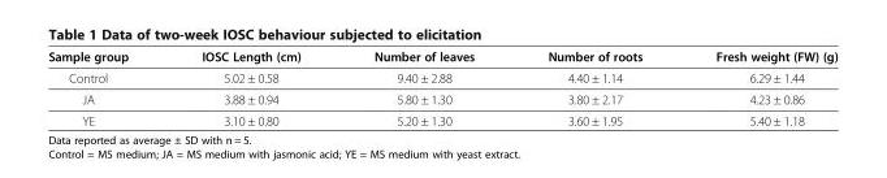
<table><thead><tr><td>Sample group</td><td>IOSC Length (cm)</td><td>Number of leaves</td><td>Number of roots</td><td>Fresh weight (FW) (g)</td></tr></thead><tbody><tr><td>Control</td><td>5.02 ± 0.58</td><td>9.40 ± 2.88</td><td>4.40 ± 1.14</td><td>6.29 ± 1.44</td></tr><tr><td>JA</td><td>3.88 ± 0.94</td><td>5.80 ± 1.30</td><td>3.80 ± 2.17</td><td>4.23 ± 0.86</td></tr><tr><td>YE</td><td>3.10 ± 0.80</td><td>5.20 ± 1.30</td><td>3.60 ± 1.95</td><td>5.40 ± 1.18</td></tr></tbody></table>